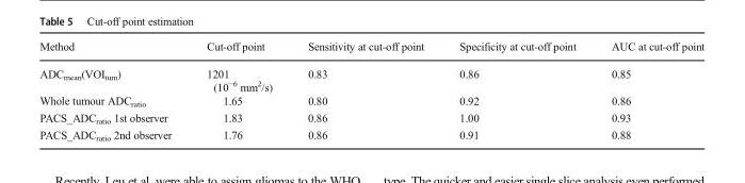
<table><thead><tr><td>Method</td><td>Cut-off point</td><td>Sensitivity at cut-off point</td><td>Specificity at cut-off point</td><td>AUC at cut-off point</td></tr></thead><tbody><tr><td>ADC<sub>mean</sub>(VOI<sub>tum</sub>)</td><td>1201 (10<sup>−6</sup> mm<sup>2</sup>/s)</td><td>0.83</td><td>0.86</td><td>0.85</td></tr><tr><td>Whole tumour ADC<sub>ratio</sub></td><td>1.65</td><td>0.80</td><td>0.92</td><td>0.86</td></tr><tr><td>PACS_ADC<sub>ratio</sub> 1st observer</td><td>1.83</td><td>0.86</td><td>1.00</td><td>0.93</td></tr><tr><td>PACS_ADC<sub>ratio</sub> 2nd observer</td><td>1.76</td><td>0.86</td><td>0.91</td><td>0.88</td></tr></tbody></table>